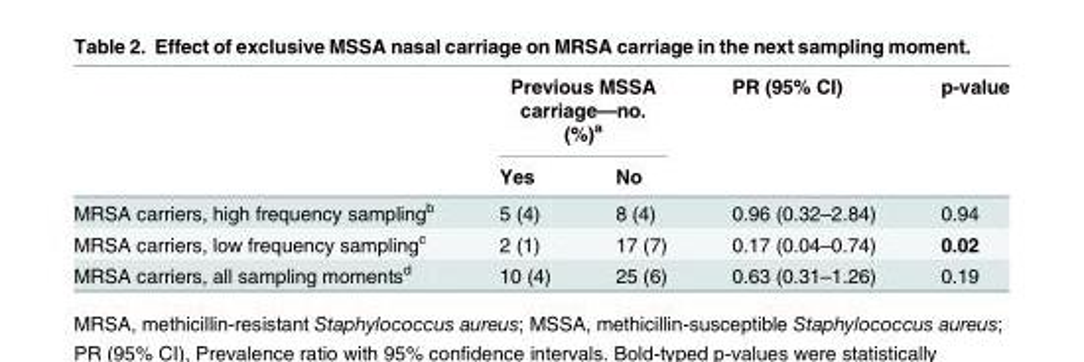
<table><thead><tr><td rowspan="2"></td><td colspan="2">Previous MSSA carriage—no. (%)<sup>a</sup></td><td rowspan="2">PR (95% CI)</td><td rowspan="2">p-value</td></tr><tr><td>Yes</td><td>No</td></tr></thead><tbody><tr><td>MRSA carriers, high frequency sampling<sup>b</sup></td><td>5 (4)</td><td>8 (4)</td><td>0.96 (0.32–2.84)</td><td>0.94</td></tr><tr><td>MRSA carriers, low frequency sampling<sup>c</sup></td><td>2 (1)</td><td>17 (7)</td><td>0.17 (0.04–0.74)</td><td>0.02</td></tr><tr><td>MRSA carriers, all sampling moments<sup>d</sup></td><td>10 (4)</td><td>25 (6)</td><td>0.63 (0.31–1.26)</td><td>0.19</td></tr></tbody></table>